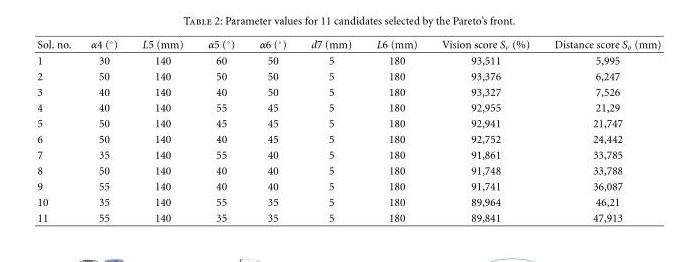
<table><thead><tr><td>Sol. no.</td><td>α4 (◦)</td><td>L5 (mm)</td><td>α5 (◦)</td><td>α6 (◦)</td><td>d7 (mm)</td><td>L6 (mm)</td><td>Vision score S<sub>v</sub> (%)</td><td>Distance score S<sub>o</sub> (mm)</td></tr></thead><tbody><tr><td>1</td><td>30</td><td>140</td><td>60</td><td>50</td><td>5</td><td>180</td><td>93,511</td><td>5,995</td></tr><tr><td>2</td><td>50</td><td>140</td><td>50</td><td>50</td><td>5</td><td>180</td><td>93,376</td><td>6,247</td></tr><tr><td>3</td><td>40</td><td>140</td><td>40</td><td>50</td><td>5</td><td>180</td><td>93,327</td><td>7,526</td></tr><tr><td>4</td><td>40</td><td>140</td><td>55</td><td>45</td><td>5</td><td>180</td><td>92,955</td><td>21,29</td></tr><tr><td>5</td><td>50</td><td>140</td><td>45</td><td>45</td><td>5</td><td>180</td><td>92,941</td><td>21,747</td></tr><tr><td>6</td><td>50</td><td>140</td><td>40</td><td>45</td><td>5</td><td>180</td><td>92,752</td><td>24,442</td></tr><tr><td>7</td><td>35</td><td>140</td><td>55</td><td>40</td><td>5</td><td>180</td><td>91,861</td><td>33,785</td></tr><tr><td>8</td><td>50</td><td>140</td><td>40</td><td>40</td><td>5</td><td>180</td><td>91,748</td><td>33,788</td></tr><tr><td>9</td><td>55</td><td>140</td><td>40</td><td>40</td><td>5</td><td>180</td><td>91,741</td><td>36,087</td></tr><tr><td>10</td><td>35</td><td>140</td><td>55</td><td>35</td><td>5</td><td>180</td><td>89,964</td><td>46,21</td></tr><tr><td>11</td><td>55</td><td>140</td><td>35</td><td>35</td><td>5</td><td>180</td><td>89,841</td><td>47,913</td></tr></tbody></table>